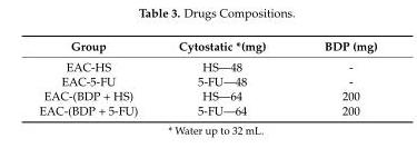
<table><thead><tr><td>Group</td><td>Cytostatic *(mg)</td><td>BDP (mg)</td></tr></thead><tbody><tr><td>EAC-HS</td><td>HS—48</td><td>-</td></tr><tr><td>EAC-5-FU</td><td>5-FU—48</td><td>-</td></tr><tr><td>EAC-(BDP + HS)</td><td>HS—64</td><td>200</td></tr><tr><td>EAC-(BDP + 5-FU)</td><td>5-FU—64</td><td>200</td></tr></tbody></table>